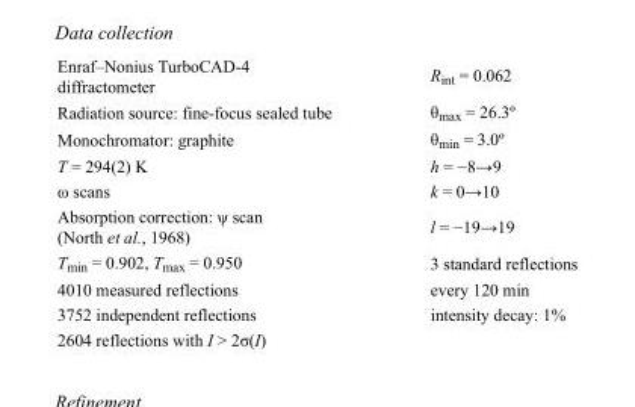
<table><tbody><tr><td>Enraf–Nonius TurboCAD-4 diffractometer</td><td>R<sub>int</sub> = 0.062</td></tr><tr><td>Radiation source: fine-focus sealed tube</td><td>θ<sub>max</sub> = 26.3º</td></tr><tr><td>Monochromator: graphite</td><td>θ<sub>min</sub> = 3.0º</td></tr><tr><td>T = 294(2) K</td><td>h = −8→9</td></tr><tr><td>ω scans</td><td>k = 0→10</td></tr><tr><td>Absorption correction: ψ scan (North et al., 1968)</td><td>l = −19→19</td></tr><tr><td>T<sub>min</sub> = 0.902, T<sub>max</sub> = 0.950</td><td>3 standard reflections</td></tr><tr><td>4010 measured reflections</td><td>every 120 min</td></tr><tr><td>3752 independent reflections</td><td>intensity decay: 1%</td></tr><tr><td>2604 reflections with I &gt; 2σ(I)</td><td></td></tr></tbody></table>